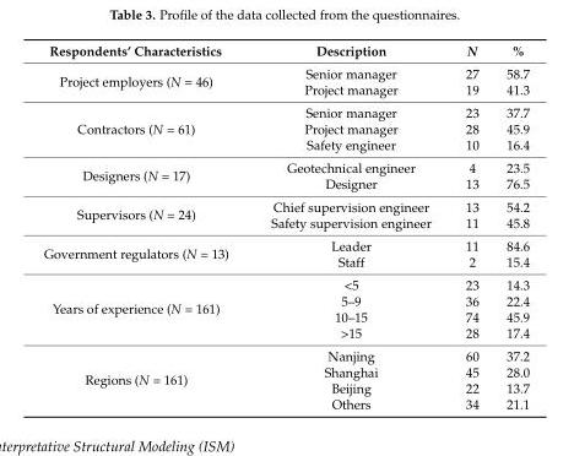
<table><thead><tr><td>Respondents’ Characteristics</td><td>Description</td><td>N</td><td>%</td></tr></thead><tbody><tr><td rowspan="2">Project employers (N = 46)</td><td>Senior manager</td><td>27</td><td>58.7</td></tr><tr><td>Project manager</td><td>19</td><td>41.3</td></tr><tr><td rowspan="3">Contractors (N = 61)</td><td>Senior manager</td><td>23</td><td>37.7</td></tr><tr><td>Project manager</td><td>28</td><td>45.9</td></tr><tr><td>Safety engineer</td><td>10</td><td>16.4</td></tr><tr><td rowspan="2">Designers (N = 17)</td><td>Geotechnical engineer</td><td>4</td><td>23.5</td></tr><tr><td>Designer</td><td>13</td><td>76.5</td></tr><tr><td rowspan="2">Supervisors (N = 24)</td><td>Chief supervision engineer</td><td>13</td><td>54.2</td></tr><tr><td>Safety supervision engineer</td><td>11</td><td>45.8</td></tr><tr><td rowspan="2">Government regulators (N = 13)</td><td>Leader</td><td>11</td><td>84.6</td></tr><tr><td>Staff</td><td>2</td><td>15.4</td></tr><tr><td rowspan="4">Years of experience (N = 161)</td><td>&lt;5</td><td>23</td><td>14.3</td></tr><tr><td>5–9</td><td>36</td><td>22.4</td></tr><tr><td>10–15</td><td>74</td><td>45.9</td></tr><tr><td>&gt;15</td><td>28</td><td>17.4</td></tr><tr><td rowspan="4">Regions (N = 161)</td><td>Nanjing</td><td>60</td><td>37.2</td></tr><tr><td>Shanghai</td><td>45</td><td>28.0</td></tr><tr><td>Beijing</td><td>22</td><td>13.7</td></tr><tr><td>Others</td><td>34</td><td>21.1</td></tr></tbody></table>